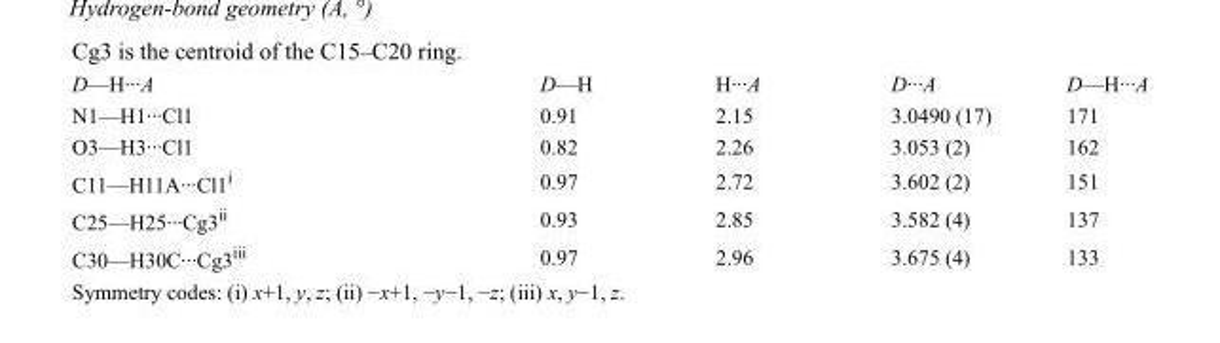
<table><tbody><tr><td>D—H···A</td><td>D—H</td><td>H···A</td><td>D···A</td><td>D—H···A</td></tr><tr><td>N1—H1···Cl1</td><td>0.91</td><td>2.15</td><td>3.0490 (17)</td><td>171</td></tr><tr><td>O3—H3···Cl1</td><td>0.82</td><td>2.26</td><td>3.053 (2)</td><td>162</td></tr><tr><td>C11—H11A···Cl1<sup>i</sup></td><td>0.97</td><td>2.72</td><td>3.602 (2)</td><td>151</td></tr><tr><td>C25—H25···Cg3<sup>ii</sup></td><td>0.93</td><td>2.85</td><td>3.582 (4)</td><td>137</td></tr><tr><td>C30—H30C···Cg3<sup>iii</sup></td><td>0.97</td><td>2.96</td><td>3.675 (4)</td><td>133</td></tr></tbody></table>